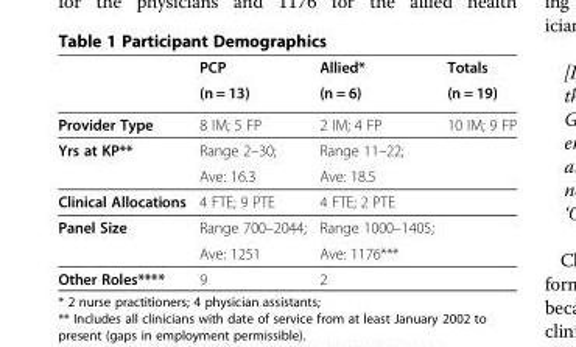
<table><thead><tr><td rowspan="2"></td><td rowspan="2">PCP (n = 13)</td><td rowspan="2">Allied* (n = 6)</td><td rowspan="2">Totals (n = 19)</td></tr><tr></tr></thead><tbody><tr><td>Provider Type</td><td>8 IM; 5 FP</td><td>2 IM; 4 FP</td><td>10 IM; 9 FP</td></tr><tr><td rowspan="2">Yrs at KP**</td><td>Range 2–30;</td><td>Range 11–22;</td><td></td></tr><tr><td>Ave: 16.3</td><td>Ave: 18.5</td><td></td></tr><tr><td>Clinical Allocations</td><td>4 FTE; 9 PTE</td><td>4 FTE; 2 PTE</td><td></td></tr><tr><td rowspan="2">Panel Size</td><td>Range 700–2044;</td><td>Range 1000–1405;</td><td></td></tr><tr><td>Ave: 1251</td><td>Ave: 1176***</td><td></td></tr><tr><td>Other Roles****</td><td>9</td><td>2</td><td></td></tr></tbody></table>